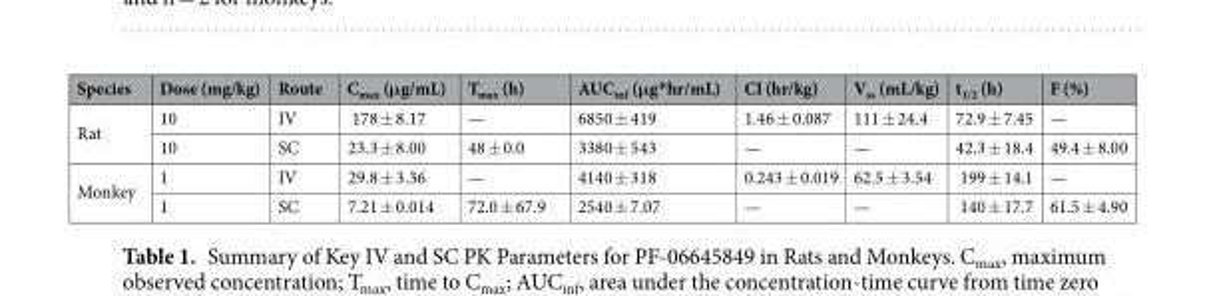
<table><thead><tr><td>Species</td><td>Dose (mg/kg)</td><td>Route</td><td>C<sub>max</sub> (μg/mL)</td><td>T<sub>max</sub> (h)</td><td>AUC<sub>inf</sub> (μg*hr/mL)</td><td>Cl (hr/kg)</td><td>V<sub>ss</sub> (mL/kg)</td><td>t<sub>1/2</sub> (h)</td><td>F (%)</td></tr></thead><tbody><tr><td rowspan="2">Rat</td><td>10</td><td>IV</td><td>178 ± 8.17</td><td>—</td><td>6850 ± 419</td><td>1.46 ± 0.087</td><td>111 ± 24.4</td><td>72.9 ± 7.45</td><td>—</td></tr><tr><td>10</td><td>SC</td><td>23.3 ± 8.00</td><td>48 ± 0.0</td><td>3380 ± 543</td><td>—</td><td>—</td><td>42.3 ± 18.4</td><td>49.4 ± 8.00</td></tr><tr><td rowspan="2">Monkey</td><td>1</td><td>IV</td><td>29.8 ± 3.36</td><td>—</td><td>4140 ± 318</td><td>0.243 ± 0.019</td><td>62.5 ± 3.54</td><td>199 ± 14.1</td><td>—</td></tr><tr><td>1</td><td>SC</td><td>7.21 ± 0.014</td><td>72.0 ± 67.9</td><td>2540 ± 7.07</td><td>—</td><td>—</td><td>140 ± 17.7</td><td>61.5 ± 4.90</td></tr></tbody></table>